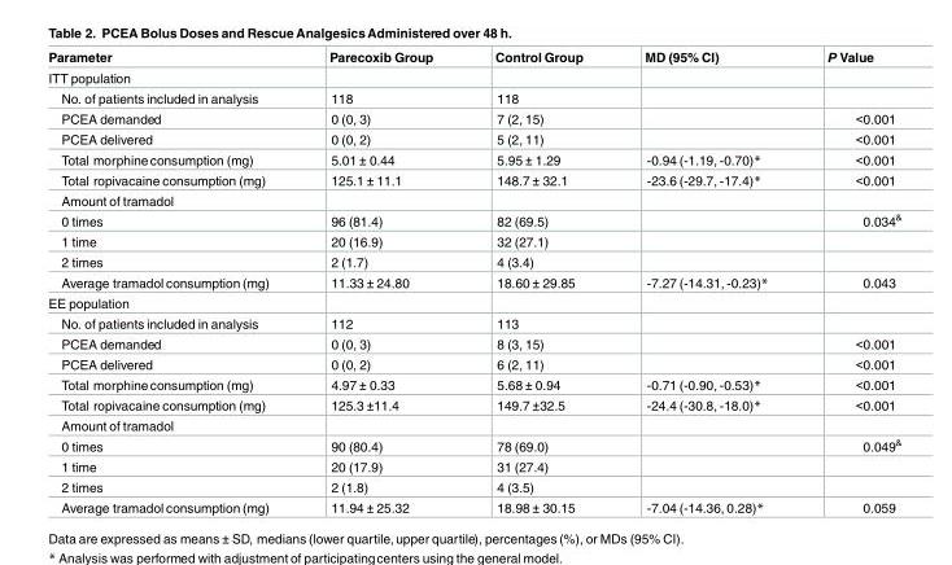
<table><thead><tr><td>Parameter</td><td>Parecoxib Group</td><td>Control Group</td><td>MD (95% CI)</td><td>P Value</td></tr></thead><tbody><tr><td colspan="5">ITT population</td></tr><tr><td>No. of patients included in analysis</td><td>118</td><td>118</td><td></td><td></td></tr><tr><td>PCEA demanded</td><td>0 (0, 3)</td><td>7 (2, 15)</td><td></td><td>&lt;0.001</td></tr><tr><td>PCEA delivered</td><td>0 (0, 2)</td><td>5 (2, 11)</td><td></td><td>&lt;0.001</td></tr><tr><td>Total morphineconsumption (mg)</td><td>5.01 ± 0.44</td><td>5.95 ± 1.29</td><td>-0.94 (-1.19, -0.70)*</td><td>&lt;0.001</td></tr><tr><td>Total ropivacaine consumption (mg)</td><td>125.1 ± 11.1</td><td>148.7 ± 32.1</td><td>-23.6 (-29.7, -17.4)*</td><td>&lt;0.001</td></tr><tr><td colspan="5">Amount of tramadol</td></tr><tr><td>0 times</td><td>96 (81.4)</td><td>82 (69.5)</td><td></td><td>0.034<sup>&amp;</sup></td></tr><tr><td>1 time</td><td>20 (16.9)</td><td>32 (27.1)</td><td></td><td></td></tr><tr><td>2 times</td><td>2 (1.7)</td><td>4 (3.4)</td><td></td><td></td></tr><tr><td>Average tramadol consumption (mg)</td><td>11.33 ± 24.80</td><td>18.60 ± 29.85</td><td>-7.27 (-14.31, -0.23)*</td><td>0.043</td></tr><tr><td colspan="5">EE population</td></tr><tr><td>No. of patients included in analysis</td><td>112</td><td>113</td><td></td><td></td></tr><tr><td>PCEA demanded</td><td>0 (0, 3)</td><td>8 (3, 15)</td><td></td><td>&lt;0.001</td></tr><tr><td>PCEA delivered</td><td>0 (0, 2)</td><td>6 (2, 11)</td><td></td><td>&lt;0.001</td></tr><tr><td>Total morphineconsumption (mg)</td><td>4.97 ± 0.33</td><td>5.68 ± 0.94</td><td>-0.71 (-0.90, -0.53)*</td><td>&lt;0.001</td></tr><tr><td>Total ropivacaine consumption (mg)</td><td>125.3 ±11.4</td><td>149.7 ±32.5</td><td>-24.4 (-30.8, -18.0)*</td><td>&lt;0.001</td></tr><tr><td colspan="5">Amount of tramadol</td></tr><tr><td>0 times</td><td>90 (80.4)</td><td>78 (69.0)</td><td></td><td>0.049<sup>&amp;</sup></td></tr><tr><td>1 time</td><td>20 (17.9)</td><td>31 (27.4)</td><td></td><td></td></tr><tr><td>2 times</td><td>2 (1.8)</td><td>4 (3.5)</td><td></td><td></td></tr><tr><td>Average tramadol consumption (mg)</td><td>11.94 ± 25.32</td><td>18.98 ± 30.15</td><td>-7.04 (-14.36, 0.28)*</td><td>0.059</td></tr></tbody></table>